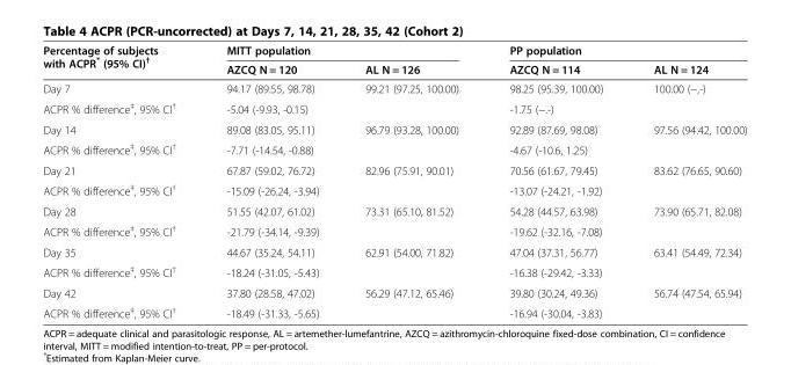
<table><thead><tr><td rowspan="2">Percentage of subjects with ACPR* (95% CI)<sup>†</sup></td><td colspan="2">MITT population</td><td colspan="2">PP population</td></tr><tr><td>AZCQ N = 120</td><td>AL N = 126</td><td>AZCQ N = 114</td><td>AL N = 124</td></tr></thead><tbody><tr><td>Day 7</td><td>94.17 (89.55, 98.78)</td><td>99.21 (97.25, 100.00)</td><td>98.25 (95.39, 100.00)</td><td>100.00 (−,-)</td></tr><tr><td>ACPR % difference<sup>‡</sup>, 95% CI<sup>†</sup></td><td colspan="2">-5.04 (-9.93, -0.15)</td><td colspan="2">-1.75 (−.-)</td></tr><tr><td>Day 14</td><td>89.08 (83.05, 95.11)</td><td>96.79 (93.28, 100.00)</td><td>92.89 (87.69, 98.08)</td><td>97.56 (94.42, 100.00)</td></tr><tr><td>ACPR % difference<sup>‡</sup>, 95% CI<sup>†</sup></td><td colspan="2">-7.71 (-14.54, -0.88)</td><td colspan="2">-4.67 (-10.6, 1.25)</td></tr><tr><td>Day 21</td><td>67.87 (59.02, 76.72)</td><td>82.96 (75.91, 90.01)</td><td>70.56 (61.67, 79.45)</td><td>83.62 (76.65, 90.60)</td></tr><tr><td>ACPR % difference<sup>‡</sup>, 95% CI<sup>†</sup></td><td colspan="2">-15.09 (-26.24, -3.94)</td><td colspan="2">-13.07 (-24.21, -1.92)</td></tr><tr><td>Day 28</td><td>51.55 (42.07, 61.02)</td><td>73.31 (65.10, 81.52)</td><td>54.28 (44.57, 63.98)</td><td>73.90 (65.71, 82.08)</td></tr><tr><td>ACPR % difference<sup>‡</sup>, 95% CI<sup>†</sup></td><td colspan="2">-21.79 (-34.14, -9.39)</td><td colspan="2">-19.62 (-32.16, -7.08)</td></tr><tr><td>Day 35</td><td>44.67 (35.24, 54.11)</td><td>62.91 (54.00, 71.82)</td><td>47.04 (37.31, 56.77)</td><td>63.41 (54.49, 72.34)</td></tr><tr><td>ACPR % difference<sup>‡</sup>, 95% CI<sup>†</sup></td><td colspan="2">-18.24 (-31.05, -5.43)</td><td colspan="2">-16.38 (-29.42, -3.33)</td></tr><tr><td>Day 42</td><td>37.80 (28.58, 47.02)</td><td>56.29 (47.12, 65.46)</td><td>39.80 (30.24, 49.36)</td><td>56.74 (47.54, 65.94)</td></tr><tr><td>ACPR % difference<sup>‡</sup>, 95% CI<sup>†</sup></td><td colspan="2">-18.49 (-31.33, -5.65)</td><td colspan="2">-16.94 (-30.04, -3.83)</td></tr></tbody></table>